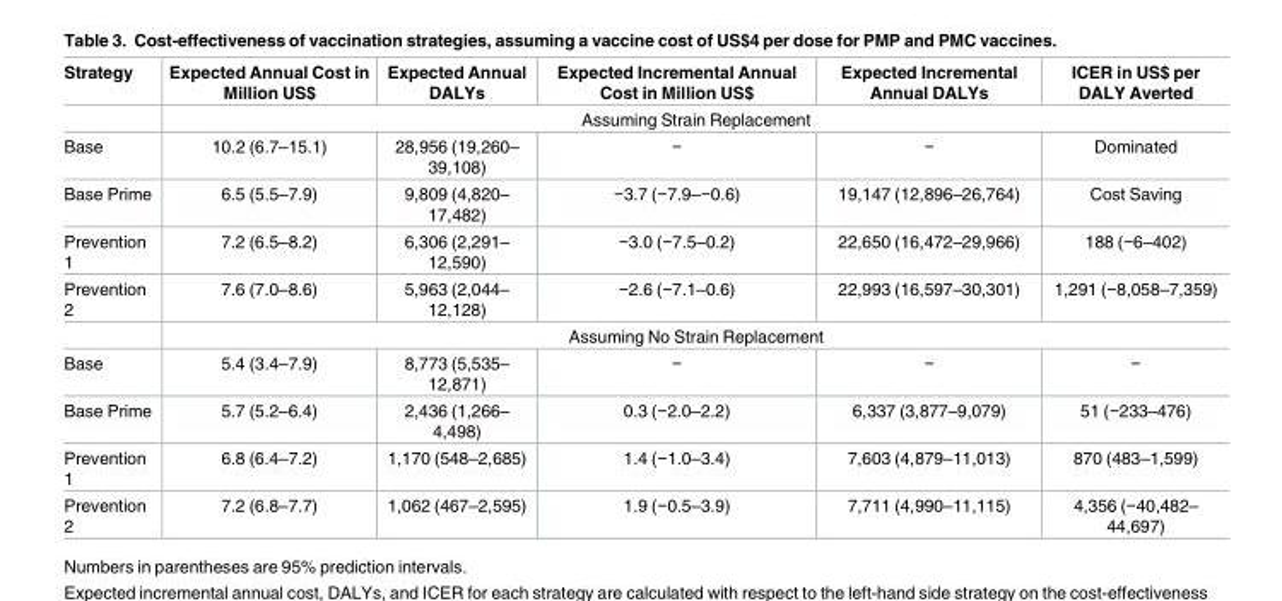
<table><thead><tr><td>Strategy</td><td>Expected Annual Cost in Million US$</td><td>Expected Annual DALYs</td><td>Expected Incremental Annual Cost in Million US$</td><td>Expected Incremental Annual DALYs</td><td>ICER in US$ per DALY Averted</td></tr></thead><tbody><tr><td></td><td colspan="5">Assuming Strain Replacement</td></tr><tr><td>Base</td><td>10.2 (6.7–15.1)</td><td>28,956 (19,260– 39,108)</td><td>−</td><td>−</td><td>Dominated</td></tr><tr><td>Base Prime</td><td>6.5 (5.5–7.9)</td><td>9,809 (4,820– 17,482)</td><td>−3.7 (−7.9–−0.6)</td><td>19,147 (12,896–26,764)</td><td>Cost Saving</td></tr><tr><td>Prevention 1</td><td>7.2 (6.5–8.2)</td><td>6,306 (2,291– 12,590)</td><td>−3.0 (−7.5–0.2)</td><td>22,650 (16,472–29,966)</td><td>188 (−6–402)</td></tr><tr><td rowspan="2">Prevention 2</td><td>7.6 (7.0–8.6)</td><td>5,963 (2,044– 12,128)</td><td>−2.6 (−7.1–0.6)</td><td>22,993 (16,597–30,301)</td><td>1,291 (−8,058–7,359)</td></tr><tr><td colspan="5">Assuming No Strain Replacement</td></tr><tr><td>Base</td><td>5.4 (3.4–7.9)</td><td>8,773 (5,535– 12,871)</td><td>−</td><td>−</td><td>−</td></tr><tr><td>Base Prime</td><td>5.7 (5.2–6.4)</td><td>2,436 (1,266– 4,498)</td><td>0.3 (−2.0–2.2)</td><td>6,337 (3,877–9,079)</td><td>51 (−233–476)</td></tr><tr><td>Prevention 1</td><td>6.8 (6.4–7.2)</td><td>1,170 (548–2,685)</td><td>1.4 (−1.0–3.4)</td><td>7,603 (4,879–11,013)</td><td>870 (483–1,599)</td></tr><tr><td>Prevention 2</td><td>7.2 (6.8–7.7)</td><td>1,062 (467–2,595)</td><td>1.9 (−0.5–3.9)</td><td>7,711 (4,990–11,115)</td><td>4,356 (−40,482– 44,697)</td></tr></tbody></table>